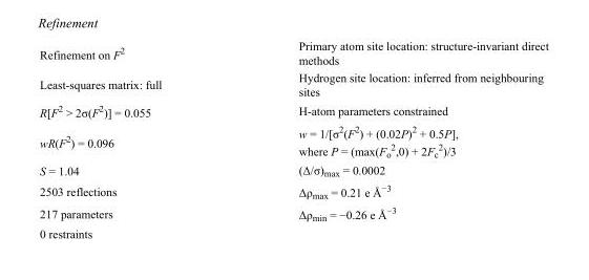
<table><tbody><tr><td>Refinement on F<sup>2</sup></td><td>Primary atom site location: structure-invariant direct methods</td></tr><tr><td>Least-squares matrix: full</td><td>Hydrogen site location: inferred from neighbouring sites</td></tr><tr><td>R[F<sup>2</sup> &gt; 2σ(F<sup>2</sup>)] = 0.055</td><td>H-atom parameters constrained</td></tr><tr><td>wR(F<sup>2</sup>) = 0.096</td><td>w = 1/[σ<sup>2</sup>(F<sup>2</sup>) + (0.02P)<sup>2</sup> + 0.5P], where P = (max(F<sub>o</sub> <sup>2</sup>,0) + 2F<sub>c</sub> <sup>2</sup>)/3</td></tr><tr><td>S = 1.04</td><td>(Δ/σ)<sub>max</sub> = 0.0002</td></tr><tr><td>2503 reflections</td><td>Δρ<sub>max</sub> = 0.21 e Å<sup>−3</sup></td></tr><tr><td>217 parameters</td><td>Δρ<sub>min</sub> = −0.26 e Å<sup>−3</sup></td></tr><tr><td>0 restraints</td><td></td></tr></tbody></table>